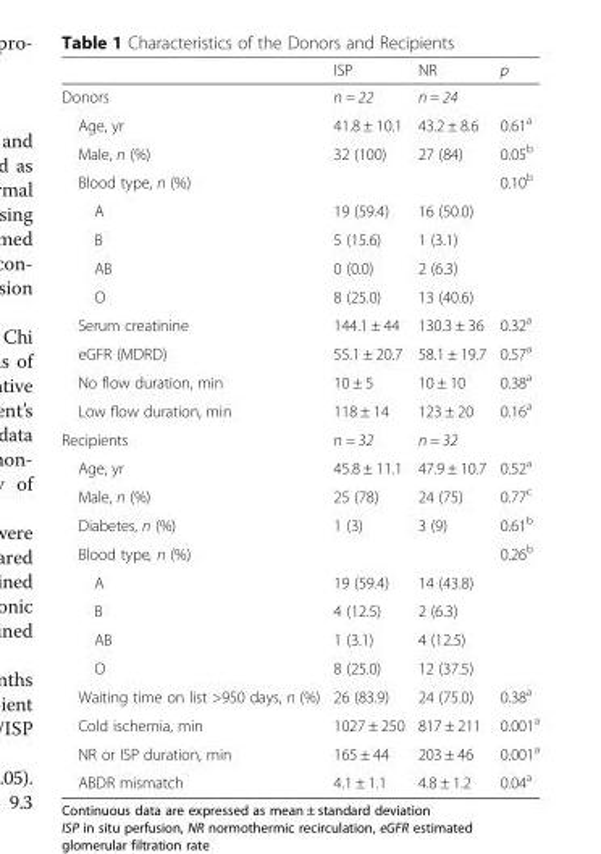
<table><thead><tr><td></td><td>ISP</td><td>NR</td><td>p</td></tr></thead><tbody><tr><td>Donors</td><td>n = 22</td><td>n = 24</td><td></td></tr><tr><td>Age, yr</td><td>41.8 ± 10.1</td><td>43.2 ± 8.6</td><td>0.61<sup>a</sup></td></tr><tr><td>Male, n (%)</td><td>32 (100)</td><td>27 (84)</td><td>0.05<sup>b</sup></td></tr><tr><td>Blood type, n (%)</td><td></td><td></td><td>0.10<sup>b</sup></td></tr><tr><td>A</td><td>19 (59.4)</td><td>16 (50.0)</td><td></td></tr><tr><td>B</td><td>5 (15.6)</td><td>1 (3.1)</td><td></td></tr><tr><td>AB</td><td>0 (0.0)</td><td>2 (6.3)</td><td></td></tr><tr><td>O</td><td>8 (25.0)</td><td>13 (40.6)</td><td></td></tr><tr><td>Serum creatinine</td><td>144.1 ± 44</td><td>130.3 ± 36</td><td>0.32<sup>a</sup></td></tr><tr><td>eGFR (MDRD)</td><td>55.1 ± 20.7</td><td>58.1 ± 19.7</td><td>0.57<sup>a</sup></td></tr><tr><td>No flow duration, min</td><td>10 ± 5</td><td>10 ± 10</td><td>0.38<sup>a</sup></td></tr><tr><td>Low flow duration, min</td><td>118 ± 14</td><td>123 ± 20</td><td>0.16<sup>a</sup></td></tr><tr><td>Recipients</td><td>n = 32</td><td>n = 32</td><td></td></tr><tr><td>Age, yr</td><td>45.8 ± 11.1</td><td>47.9 ± 10.7</td><td>0.52<sup>a</sup></td></tr><tr><td>Male, n (%)</td><td>25 (78)</td><td>24 (75)</td><td>0.77<sup>c</sup></td></tr><tr><td>Diabetes, n (%)</td><td>1 (3)</td><td>3 (9)</td><td>0.61<sup>b</sup></td></tr><tr><td>Blood type, n (%)</td><td></td><td></td><td>0.26<sup>b</sup></td></tr><tr><td>A</td><td>19 (59.4)</td><td>14 (43.8)</td><td></td></tr><tr><td>B</td><td>4 (12.5)</td><td>2 (6.3)</td><td></td></tr><tr><td>AB</td><td>1 (3.1)</td><td>4 (12.5)</td><td></td></tr><tr><td>O</td><td>8 (25.0)</td><td>12 (37.5)</td><td></td></tr><tr><td>Waiting time on list &gt;950 days, n (%)</td><td>26 (83.9)</td><td>24 (75.0)</td><td>0.38<sup>a</sup></td></tr><tr><td>Cold ischemia, min</td><td>1027 ± 250</td><td>817 ± 211</td><td>0.001<sup>a</sup></td></tr><tr><td>NR or ISP duration, min</td><td>165 ± 44</td><td>203 ± 46</td><td>0.001<sup>a</sup></td></tr><tr><td>ABDR mismatch</td><td>4.1 ± 1.1</td><td>4.8 ± 1.2</td><td>0.04<sup>a</sup></td></tr></tbody></table>